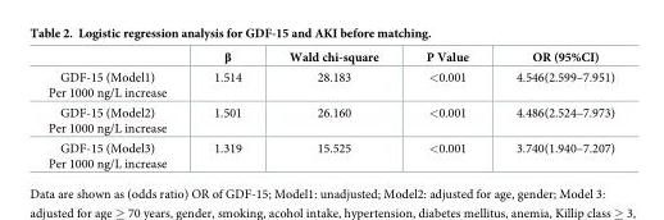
<table><thead><tr><td></td><td>β</td><td>Wald chi-square</td><td>P Value</td><td>OR (95%CI)</td></tr></thead><tbody><tr><td>GDF-15 (Model1) Per 1000 ng/L increase</td><td>1.514</td><td>28.183</td><td>&lt;0.001</td><td>4.546(2.599–7.951)</td></tr><tr><td>GDF-15 (Model2) Per 1000 ng/L increase</td><td>1.501</td><td>26.160</td><td>&lt;0.001</td><td>4.486(2.524–7.973)</td></tr><tr><td>GDF-15 (Model3) Per 1000 ng/L increase</td><td>1.319</td><td>15.525</td><td>&lt;0.001</td><td>3.740(1.940–7.207)</td></tr></tbody></table>